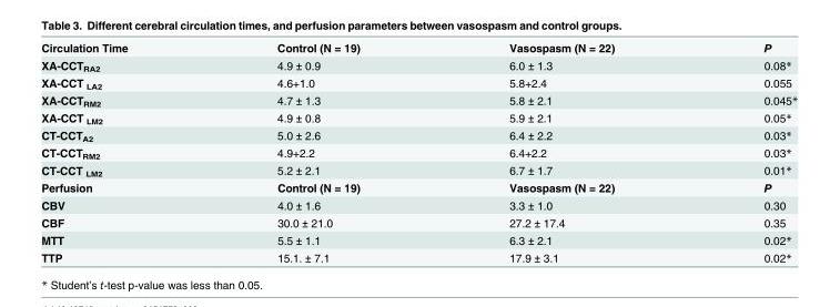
<table><tbody><tr><td>Circulation Time</td><td>Control (N = 19)</td><td>Vasospasm (N = 22)</td><td>P</td></tr><tr><td>XA-CCT<sub>RA2</sub></td><td>4.9 ± 0.9</td><td>6.0 ± 1.3</td><td>0.08*</td></tr><tr><td>XA-CCT <sub>LA2</sub></td><td>4.6+1.0</td><td>5.8+2.4</td><td>0.055</td></tr><tr><td>XA-CCT<sub>RM2</sub></td><td>4.7 ± 1.3</td><td>5.8 ± 2.1</td><td>0.045*</td></tr><tr><td>XA-CCT <sub>LM2</sub></td><td>4.9 ± 0.8</td><td>5.9 ± 2.1</td><td>0.05*</td></tr><tr><td>CT-CCT<sub>A2</sub></td><td>5.0 ± 2.6</td><td>6.4 ± 2.2</td><td>0.03*</td></tr><tr><td>CT-CCT<sub>RM2</sub></td><td>4.9+2.2</td><td>6.4+2.2</td><td>0.03*</td></tr><tr><td>CT-CCT <sub>LM2</sub></td><td>5.2 ± 2.1</td><td>6.7 ± 1.7</td><td>0.01*</td></tr><tr><td>Perfusion</td><td>Control (N = 19)</td><td>Vasospasm (N = 22)</td><td>P</td></tr><tr><td>CBV</td><td>4.0 ± 1.6</td><td>3.3 ± 1.0</td><td>0.30</td></tr><tr><td>CBF</td><td>30.0 ± 21.0</td><td>27.2 ± 17.4</td><td>0.35</td></tr><tr><td>MTT</td><td>5.5 ± 1.1</td><td>6.3 ± 2.1</td><td>0.02*</td></tr><tr><td>TTP</td><td>15.1. ± 7.1</td><td>17.9 ± 3.1</td><td>0.02*</td></tr></tbody></table>